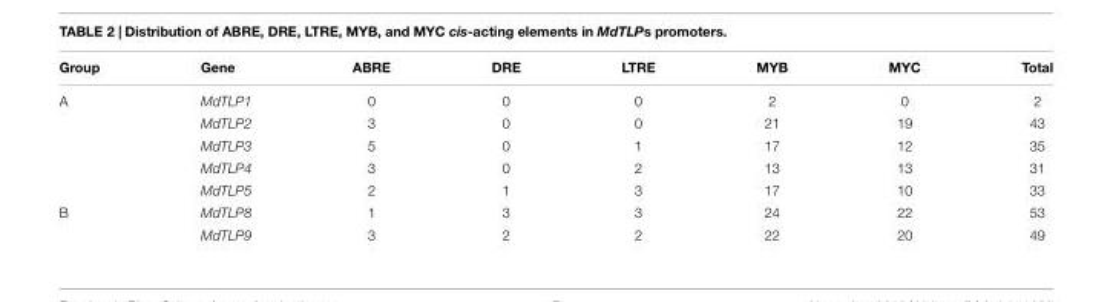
<table><thead><tr><td>Group</td><td>Gene</td><td>ABRE</td><td>DRE</td><td>LTRE</td><td>MYB</td><td>MYC</td><td>Total</td></tr></thead><tbody><tr><td rowspan="5">A</td><td>MdTLP1</td><td>0</td><td>0</td><td>0</td><td>2</td><td>0</td><td>2</td></tr><tr><td>MdTLP2</td><td>3</td><td>0</td><td>0</td><td>21</td><td>19</td><td>43</td></tr><tr><td>MdTLP3</td><td>5</td><td>0</td><td>1</td><td>17</td><td>12</td><td>35</td></tr><tr><td>MdTLP4</td><td>3</td><td>0</td><td>2</td><td>13</td><td>13</td><td>31</td></tr><tr><td>MdTLP5</td><td>2</td><td>1</td><td>3</td><td>17</td><td>10</td><td>33</td></tr><tr><td rowspan="2">B</td><td>MdTLP8</td><td>1</td><td>3</td><td>3</td><td>24</td><td>22</td><td>53</td></tr><tr><td>MdTLP9</td><td>3</td><td>2</td><td>2</td><td>22</td><td>20</td><td>49</td></tr></tbody></table>